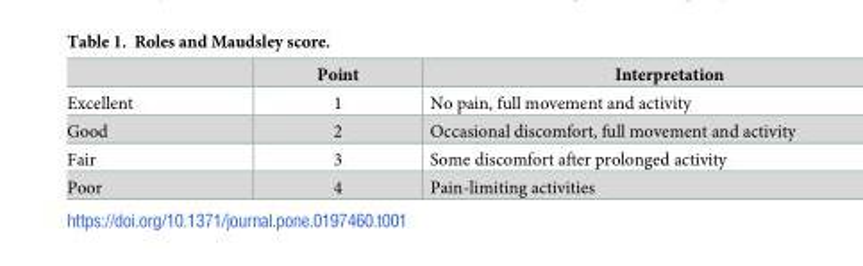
<table><thead><tr><td></td><td>Point</td><td>Interpretation</td></tr></thead><tbody><tr><td>Excellent</td><td>1</td><td>No pain, full movement and activity</td></tr><tr><td>Good</td><td>2</td><td>Occasional discomfort, full movement and activity</td></tr><tr><td>Fair</td><td>3</td><td>Some discomfort after prolonged activity</td></tr><tr><td>Poor</td><td>4</td><td>Pain-limiting activities</td></tr></tbody></table>